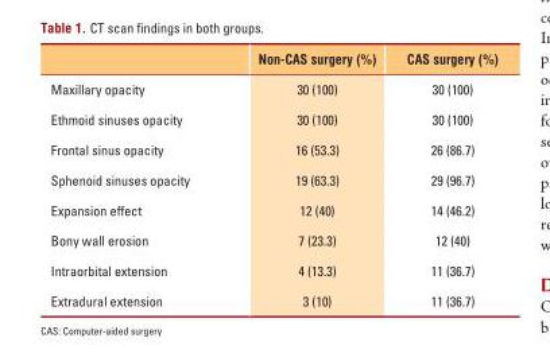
<table><thead><tr><td></td><td>Non-CAS surgery (%)</td><td>CAS surgery (%)</td></tr></thead><tbody><tr><td>Maxillary opacity</td><td>30 (100)</td><td>30 (100)</td></tr><tr><td>Ethmoid sinuses opacity</td><td>30 (100)</td><td>30 (100)</td></tr><tr><td>Frontal sinus opacity</td><td>16 (53.3)</td><td>26 (86.7)</td></tr><tr><td>Sphenoid sinuses opacity</td><td>19 (63.3)</td><td>29 (96.7)</td></tr><tr><td>Expansion effect</td><td>12 (40)</td><td>14 (46.2)</td></tr><tr><td>Bony wall erosion</td><td>7 (23.3)</td><td>12 (40)</td></tr><tr><td>Intraorbital extension</td><td>4 (13.3)</td><td>11 (36.7)</td></tr><tr><td>Extradural extension</td><td>3 (10)</td><td>11 (36.7)</td></tr></tbody></table>